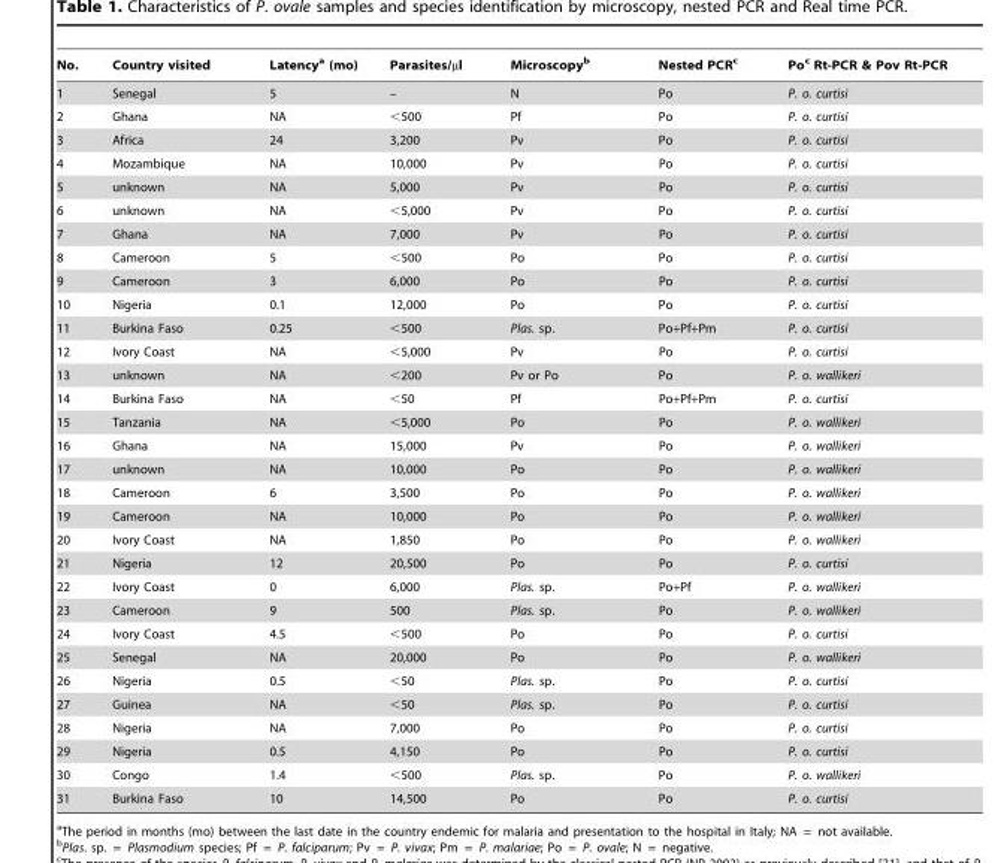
<table><thead><tr><td>No.</td><td>Country visited</td><td>Latency<sup>a</sup> (mo)</td><td>Parasites/µl</td><td>Microscopy<sup>b</sup></td><td>Nested PCR<sup>c</sup></td><td>Po<sup>c</sup> Rt-PCR &amp; Pov Rt-PCR</td></tr></thead><tbody><tr><td>1</td><td>Senegal</td><td>5</td><td>–</td><td>N</td><td>Po</td><td>P. o. curtisi</td></tr><tr><td>2</td><td>Ghana</td><td>NA</td><td>&lt;500</td><td>Pf</td><td>Po</td><td>P. o. curtisi</td></tr><tr><td>3</td><td>Africa</td><td>24</td><td>3,200</td><td>Pv</td><td>Po</td><td>P. o. curtisi</td></tr><tr><td>4</td><td>Mozambique</td><td>NA</td><td>10,000</td><td>Pv</td><td>Po</td><td>P. o. curtisi</td></tr><tr><td>5</td><td>unknown</td><td>NA</td><td>5,000</td><td>Pv</td><td>Po</td><td>P. o. curtisi</td></tr><tr><td>6</td><td>unknown</td><td>NA</td><td>&lt;5,000</td><td>Pv</td><td>Po</td><td>P. o. curtisi</td></tr><tr><td>7</td><td>Ghana</td><td>NA</td><td>7,000</td><td>Pv</td><td>Po</td><td>P. o. curtisi</td></tr><tr><td>8</td><td>Cameroon</td><td>5</td><td>&lt;500</td><td>Po</td><td>Po</td><td>P. o. curtisi</td></tr><tr><td>9</td><td>Cameroon</td><td>3</td><td>6,000</td><td>Po</td><td>Po</td><td>P. o. curtisi</td></tr><tr><td>10</td><td>Nigeria</td><td>0.1</td><td>12,000</td><td>Po</td><td>Po</td><td>P. o. curtisi</td></tr><tr><td>11</td><td>Burkina Faso</td><td>0.25</td><td>&lt;500</td><td>Plas. sp.</td><td>Po+Pf+Pm</td><td>P. o. curtisi</td></tr><tr><td>12</td><td>Ivory Coast</td><td>NA</td><td>&lt;5,000</td><td>Pv</td><td>Po</td><td>P. o. curtisi</td></tr><tr><td>13</td><td>unknown</td><td>NA</td><td>&lt;200</td><td>Pv or Po</td><td>Po</td><td>P. o. wallikeri</td></tr><tr><td>14</td><td>Burkina Faso</td><td>NA</td><td>&lt;50</td><td>Pf</td><td>Po+Pf+Pm</td><td>P. o. curtisi</td></tr><tr><td>15</td><td>Tanzania</td><td>NA</td><td>&lt;5,000</td><td>Po</td><td>Po</td><td>P. o. wallikeri</td></tr><tr><td>16</td><td>Ghana</td><td>NA</td><td>15,000</td><td>Pv</td><td>Po</td><td>P. o. wallikeri</td></tr><tr><td>17</td><td>unknown</td><td>NA</td><td>10,000</td><td>Po</td><td>Po</td><td>P. o. wallikeri</td></tr><tr><td>18</td><td>Cameroon</td><td>6</td><td>3,500</td><td>Po</td><td>Po</td><td>P. o. wallikeri</td></tr><tr><td>19</td><td>Cameroon</td><td>NA</td><td>10,000</td><td>Po</td><td>Po</td><td>P. o. wallikeri</td></tr><tr><td>20</td><td>Ivory Coast</td><td>NA</td><td>1,850</td><td>Po</td><td>Po</td><td>P. o. wallikeri</td></tr><tr><td>21</td><td>Nigeria</td><td>12</td><td>20,500</td><td>Po</td><td>Po</td><td>P. o. curtisi</td></tr><tr><td>22</td><td>Ivory Coast</td><td>0</td><td>6,000</td><td>Plas. sp.</td><td>Po+Pf</td><td>P. o. wallikeri</td></tr><tr><td>23</td><td>Cameroon</td><td>9</td><td>500</td><td>Plas. sp.</td><td>Po</td><td>P. o. wallikeri</td></tr><tr><td>24</td><td>Ivory Coast</td><td>4.5</td><td>&lt;500</td><td>Po</td><td>Po</td><td>P. o. curtisi</td></tr><tr><td>25</td><td>Senegal</td><td>NA</td><td>20,000</td><td>Po</td><td>Po</td><td>P. o. wallikeri</td></tr><tr><td>26</td><td>Nigeria</td><td>0.5</td><td>&lt;50</td><td>Plas. sp.</td><td>Po</td><td>P. o. curtisi</td></tr><tr><td>27</td><td>Guinea</td><td>NA</td><td>&lt;50</td><td>Plas. sp.</td><td>Po</td><td>P. o. curtisi</td></tr><tr><td>28</td><td>Nigeria</td><td>NA</td><td>7,000</td><td>Po</td><td>Po</td><td>P. o. curtisi</td></tr><tr><td>29</td><td>Nigeria</td><td>0.5</td><td>4,150</td><td>Po</td><td>Po</td><td>P. o. curtisi</td></tr><tr><td>30</td><td>Congo</td><td>1.4</td><td>&lt;500</td><td>Plas. sp.</td><td>Po</td><td>P. o. wallikeri</td></tr><tr><td>31</td><td>Burkina Faso</td><td>10</td><td>14,500</td><td>Po</td><td>Po</td><td>P. o. curtisi</td></tr></tbody></table>